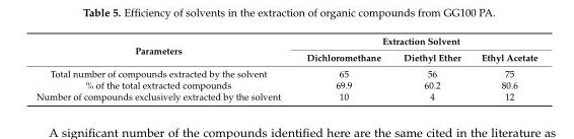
<table><thead><tr><td rowspan="2">Parameters</td><td colspan="3">Extraction Solvent</td></tr><tr><td>Dichloromethane</td><td>Diethyl Ether</td><td>Ethyl Acetate</td></tr></thead><tbody><tr><td>Total number of compounds extracted by the solvent</td><td>65</td><td>56</td><td>75</td></tr><tr><td>% of the total extracted compounds</td><td>69.9</td><td>60.2</td><td>80.6</td></tr><tr><td>Number of compounds exclusively extracted by the solvent</td><td>10</td><td>4</td><td>12</td></tr></tbody></table>